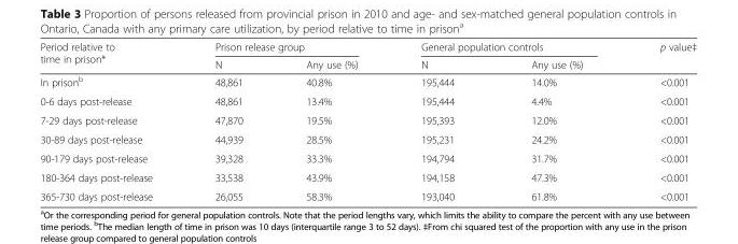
<table><thead><tr><td rowspan="2">Period relative to time in prison*</td><td colspan="2">Prison release group</td><td colspan="2">General population controls</td><td rowspan="2">p value‡</td></tr><tr><td>N</td><td>Any use (%)</td><td>N</td><td>Any use (%)</td></tr></thead><tbody><tr><td>In prison<sup>b</sup></td><td>48,861</td><td>40.8%</td><td>195,444</td><td>14.0%</td><td>&lt;0.001</td></tr><tr><td>0-6 days post-release</td><td>48,861</td><td>13.4%</td><td>195,444</td><td>4.4%</td><td>&lt;0.001</td></tr><tr><td>7-29 days post-release</td><td>47,870</td><td>19.5%</td><td>195,393</td><td>12.0%</td><td>&lt;0.001</td></tr><tr><td>30-89 days post-release</td><td>44,939</td><td>28.5%</td><td>195,231</td><td>24.2%</td><td>&lt;0.001</td></tr><tr><td>90-179 days post-release</td><td>39,328</td><td>33.3%</td><td>194,794</td><td>31.7%</td><td>&lt;0.001</td></tr><tr><td>180-364 days post-release</td><td>33,538</td><td>43.9%</td><td>194,158</td><td>47.3%</td><td>&lt;0.001</td></tr><tr><td>365-730 days post-release</td><td>26,055</td><td>58.3%</td><td>193,040</td><td>61.8%</td><td>&lt;0.001</td></tr></tbody></table>